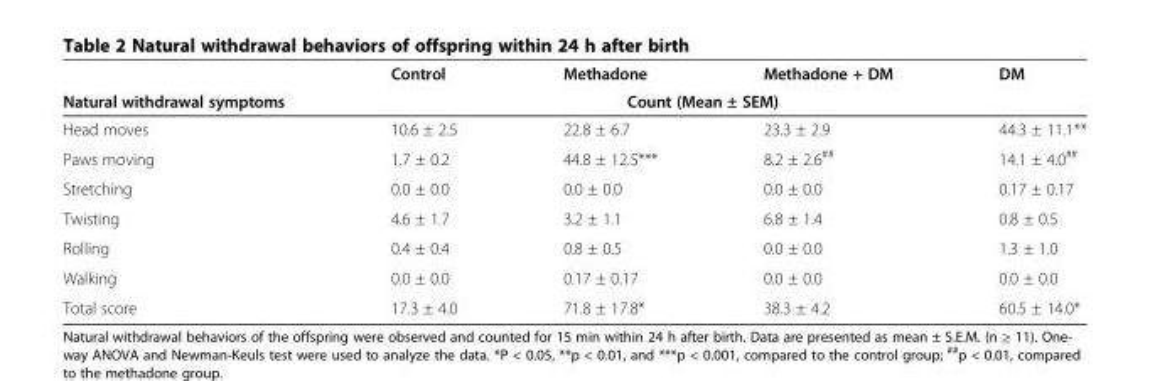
<table><thead><tr><td rowspan="2">Natural withdrawal symptoms</td><td rowspan="2">Control</td><td>Methadone</td><td>Methadone + DM</td><td rowspan="2">DM</td></tr><tr><td colspan="2">Count (Mean ± SEM)</td></tr></thead><tbody><tr><td>Head moves</td><td>10.6 ± 2.5</td><td>22.8 ± 6.7</td><td>23.3 ± 2.9</td><td>44.3 ± 11.1**</td></tr><tr><td>Paws moving</td><td>1.7 ± 0.2</td><td>44.8 ± 12.5***</td><td>8.2 ± 2.6<sup>##</sup></td><td>14.1 ± 4.0<sup>##</sup></td></tr><tr><td>Stretching</td><td>0.0 ± 0.0</td><td>0.0 ± 0.0</td><td>0.0 ± 0.0</td><td>0.17 ± 0.17</td></tr><tr><td>Twisting</td><td>4.6 ± 1.7</td><td>3.2 ± 1.1</td><td>6.8 ± 1.4</td><td>0.8 ± 0.5</td></tr><tr><td>Rolling</td><td>0.4 ± 0.4</td><td>0.8 ± 0.5</td><td>0.0 ± 0.0</td><td>1.3 ± 1.0</td></tr><tr><td>Walking</td><td>0.0 ± 0.0</td><td>0.17 ± 0.17</td><td>0.0 ± 0.0</td><td>0.0 ± 0.0</td></tr><tr><td>Total score</td><td>17.3 ± 4.0</td><td>71.8 ± 17.8*</td><td>38.3 ± 4.2</td><td>60.5 ± 14.0*</td></tr></tbody></table>